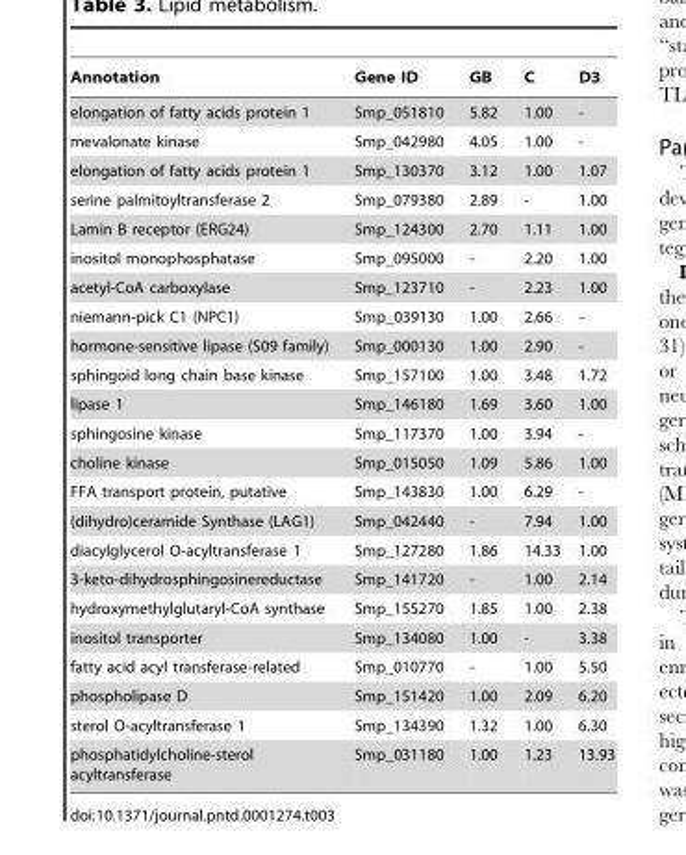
<table><thead><tr><td>Annotation</td><td>Gene ID</td><td>GB</td><td>C</td><td>D3</td></tr></thead><tbody><tr><td>elongation of fatty acids protein 1</td><td>Smp_051810</td><td>5.82</td><td>1.00</td><td>-</td></tr><tr><td>mevalonate kinase</td><td>Smp_042980</td><td>4.05</td><td>1.00</td><td>-</td></tr><tr><td>elongation of fatty acids protein 1</td><td>Smp_130370</td><td>3.12</td><td>1.00</td><td>1.07</td></tr><tr><td>serine palmitoyltransferase 2</td><td>Smp_079380</td><td>2.89</td><td>-</td><td>1.00</td></tr><tr><td>Lamin B receptor (ERG24)</td><td>Smp_124300</td><td>2.70</td><td>1.11</td><td>1.00</td></tr><tr><td>inositol monophosphatase</td><td>Smp_095000</td><td>-</td><td>2.20</td><td>1.00</td></tr><tr><td>acetyl-CoA carboxylase</td><td>Smp_123710</td><td>-</td><td>2.23</td><td>1.00</td></tr><tr><td>niemann-pick C1 (NPC1)</td><td>Smp_039130</td><td>1.00</td><td>2.66</td><td>-</td></tr><tr><td>hormone-sensitive lipase (S09 family)</td><td>Smp_000130</td><td>1.00</td><td>2.90</td><td>-</td></tr><tr><td>sphingoid long chain base kinase</td><td>Smp_157100</td><td>1.00</td><td>3.48</td><td>1.72</td></tr><tr><td>lipase 1</td><td>Smp_146180</td><td>1.69</td><td>3.60</td><td>1.00</td></tr><tr><td>sphingosine kinase</td><td>Smp_117370</td><td>1.00</td><td>3.94</td><td>-</td></tr><tr><td>choline kinase</td><td>Smp_015050</td><td>1.09</td><td>5.86</td><td>1.00</td></tr><tr><td>FFA transport protein, putative</td><td>Smp_143830</td><td>1.00</td><td>6.29</td><td>-</td></tr><tr><td>(dihydro)ceramide Synthase (LAG1)</td><td>Smp_042440</td><td>-</td><td>7.94</td><td>1.00</td></tr><tr><td>diacylglycerol O-acyltransferase 1</td><td>Smp_127280</td><td>1.86</td><td>14.33</td><td>1.00</td></tr><tr><td>3-keto-dihydrosphingosinereductase</td><td>Smp_141720</td><td>-</td><td>1.00</td><td>2.14</td></tr><tr><td>hydroxymethylglutaryl-CoA synthase</td><td>Smp_155270</td><td>1.85</td><td>1.00</td><td>2.38</td></tr><tr><td>inositol transporter</td><td>Smp_134080</td><td>1.00</td><td>-</td><td>3.38</td></tr><tr><td>fatty acid acyl transferase-related</td><td>Smp_010770</td><td>-</td><td>1.00</td><td>5.50</td></tr><tr><td>phospholipase D</td><td>Smp_151420</td><td>1.00</td><td>2.09</td><td>6.20</td></tr><tr><td>sterol O-acyltransferase 1</td><td>Smp_134390</td><td>1.32</td><td>1.00</td><td>6.30</td></tr><tr><td>phosphatidylcholine-sterol acyltransferase</td><td>Smp_031180</td><td>1.00</td><td>1.23</td><td>13.93</td></tr></tbody></table>